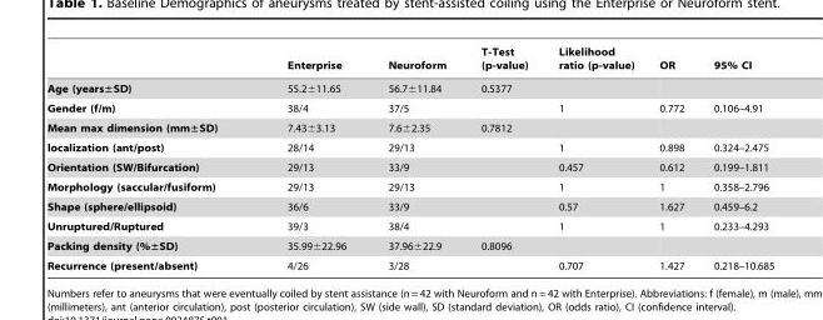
<table><thead><tr><td></td><td>Enterprise</td><td>Neuroform</td><td>T-Test (p-value)</td><td>Likelihood ratio (p-value)</td><td>OR</td><td>95% CI</td></tr></thead><tbody><tr><td>Age (years±SD)</td><td>55.2±11.65</td><td>56.7±11.84</td><td>0.5377</td><td></td><td></td><td></td></tr><tr><td>Gender (f/m)</td><td>38/4</td><td>37/5</td><td></td><td>1</td><td>0.772</td><td>0.106–4.91</td></tr><tr><td>Mean max dimension (mm±SD)</td><td>7.43±3.13</td><td>7.6±2.35</td><td>0.7812</td><td></td><td></td><td></td></tr><tr><td>localization (ant/post)</td><td>28/14</td><td>29/13</td><td></td><td>1</td><td>0.898</td><td>0.324–2.475</td></tr><tr><td>Orientation (SW/Bifurcation)</td><td>29/13</td><td>33/9</td><td></td><td>0.457</td><td>0.612</td><td>0.199–1.811</td></tr><tr><td>Morphology (saccular/fusiform)</td><td>29/13</td><td>29/13</td><td></td><td>1</td><td>1</td><td>0.358–2.796</td></tr><tr><td>Shape (sphere/ellipsoid)</td><td>36/6</td><td>33/9</td><td></td><td>0.57</td><td>1.627</td><td>0.459–6.2</td></tr><tr><td>Unruptured/Ruptured</td><td>39/3</td><td>38/4</td><td></td><td>1</td><td>1</td><td>0.233–4.293</td></tr><tr><td>Packing density (%±SD)</td><td>35.99±22.96</td><td>37.96±22.9</td><td>0.8096</td><td></td><td></td><td></td></tr><tr><td>Recurrence (present/absent)</td><td>4/26</td><td>3/28</td><td></td><td>0.707</td><td>1.427</td><td>0.218–10.685</td></tr></tbody></table>